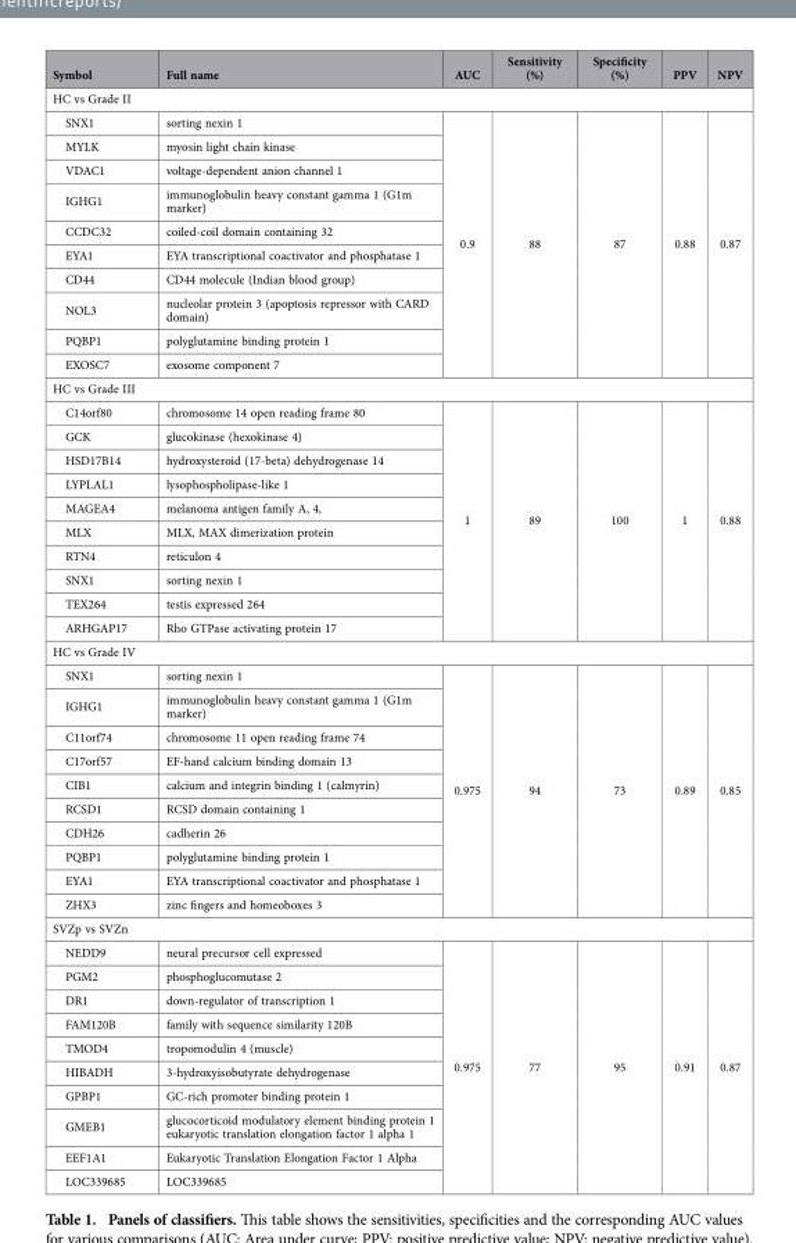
<table><thead><tr><td>Symbol</td><td>Full name</td><td>AUC</td><td>Sensitivity (%)</td><td>Specificity (%)</td><td>PPV</td><td>NPV</td></tr></thead><tbody><tr><td colspan="7">HC vs Grade II</td></tr><tr><td>SNX1</td><td>sorting nexin 1</td><td rowspan="10">0.9</td><td rowspan="10">88</td><td rowspan="10">87</td><td rowspan="10">0.88</td><td rowspan="10">0.87</td></tr><tr><td>MYLK</td><td>myosin light chain kinase</td></tr><tr><td>VDAC1</td><td>voltage-dependent anion channel 1</td></tr><tr><td>IGHG1</td><td>immunoglobulin heavy constant gamma 1 (G1m marker)</td></tr><tr><td>CCDC32</td><td>coiled-coil domain containing 32</td></tr><tr><td>EYA1</td><td>EYA transcriptional coactivator and phosphatase 1</td></tr><tr><td>CD44</td><td>CD44 molecule (Indian blood group)</td></tr><tr><td>NOL3</td><td>nucleolar protein 3 (apoptosis repressor with CARD domain)</td></tr><tr><td>PQBP1</td><td>polyglutamine binding protein 1</td></tr><tr><td>EXOSC7</td><td>exosome component 7</td></tr><tr><td colspan="7">HC vs Grade III</td></tr><tr><td>C14orf80</td><td>chromosome 14 open reading frame 80</td><td rowspan="10">1</td><td rowspan="10">89</td><td rowspan="10">100</td><td rowspan="10">1</td><td rowspan="10">0.88</td></tr><tr><td>GCK</td><td>glucokinase (hexokinase 4)</td></tr><tr><td>HSD17B14</td><td>hydroxysteroid (17-beta) dehydrogenase 14</td></tr><tr><td>LYPLAL1</td><td>lysophospholipase-like 1</td></tr><tr><td>MAGEA4</td><td>melanoma antigen family A, 4,</td></tr><tr><td>MLX</td><td>MLX, MAX dimerization protein</td></tr><tr><td>RTN4</td><td>reticulon 4</td></tr><tr><td>SNX1</td><td>sorting nexin 1</td></tr><tr><td>TEX264</td><td>testis expressed 264</td></tr><tr><td>ARHGAP17</td><td>Rho GTPase activating protein 17</td></tr><tr><td colspan="7">HC vs Grade IV</td></tr><tr><td>SNX1</td><td>sorting nexin 1</td><td rowspan="10">0.975</td><td rowspan="10">94</td><td rowspan="10">73</td><td rowspan="10">0.89</td><td rowspan="10">0.85</td></tr><tr><td>IGHG1</td><td>immunoglobulin heavy constant gamma 1 (G1m marker)</td></tr><tr><td>C11orf74</td><td>chromosome 11 open reading frame 74</td></tr><tr><td>C17orf57</td><td>EF-hand calcium binding domain 13</td></tr><tr><td>CIB1</td><td>calcium and integrin binding 1 (calmyrin)</td></tr><tr><td>RCSD1</td><td>RCSD domain containing 1</td></tr><tr><td>CDH26</td><td>cadherin 26</td></tr><tr><td>PQBP1</td><td>polyglutamine binding protein 1</td></tr><tr><td>EYA1</td><td>EYA transcriptional coactivator and phosphatase 1</td></tr><tr><td>ZHX3</td><td>zinc fingers and homeoboxes 3</td></tr><tr><td colspan="7">SVZp vs SVZn</td></tr><tr><td>NEDD9</td><td>neural precursor cell expressed</td><td rowspan="10">0.975</td><td rowspan="10">77</td><td rowspan="10">95</td><td rowspan="10">0.91</td><td rowspan="10">0.87</td></tr><tr><td>PGM2</td><td>phosphoglucomutase 2</td></tr><tr><td>DR1</td><td>down-regulator of transcription 1</td></tr><tr><td>FAM120B</td><td>family with sequence similarity 120B</td></tr><tr><td>TMOD4</td><td>tropomodulin 4 (muscle)</td></tr><tr><td>HIBADH</td><td>3-hydroxyisobutyrate dehydrogenase</td></tr><tr><td>GPBP1</td><td>GC-rich promoter binding protein 1</td></tr><tr><td>GMEB1</td><td>glucocorticoid modulatory element binding protein 1 eukaryotic translation elongation factor 1 alpha 1</td></tr><tr><td>EEF1A1</td><td>Eukaryotic Translation Elongation Factor 1 Alpha</td></tr><tr><td>LOC339685</td><td>LOC339685</td></tr></tbody></table>